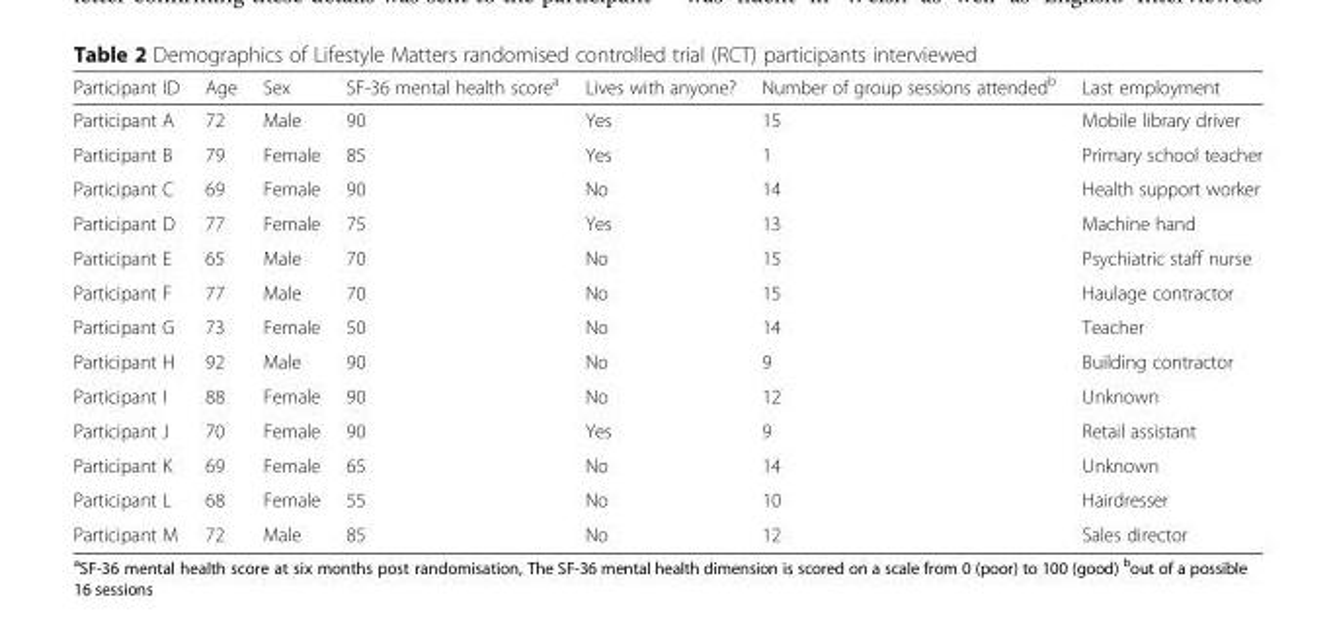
<table><thead><tr><td>Participant ID</td><td>Age</td><td>Sex</td><td>SF-36 mental health score<sup>a</sup></td><td>Lives with anyone?</td><td>Number of group sessions attended<sup>b</sup></td><td>Last employment</td></tr></thead><tbody><tr><td>Participant A</td><td>72</td><td>Male</td><td>90</td><td>Yes</td><td>15</td><td>Mobile library driver</td></tr><tr><td>Participant B</td><td>79</td><td>Female</td><td>85</td><td>Yes</td><td>1</td><td>Primary school teacher</td></tr><tr><td>Participant C</td><td>69</td><td>Female</td><td>90</td><td>No</td><td>14</td><td>Health support worker</td></tr><tr><td>Participant D</td><td>77</td><td>Female</td><td>75</td><td>Yes</td><td>13</td><td>Machine hand</td></tr><tr><td>Participant E</td><td>65</td><td>Male</td><td>70</td><td>No</td><td>15</td><td>Psychiatric staff nurse</td></tr><tr><td>Participant F</td><td>77</td><td>Male</td><td>70</td><td>No</td><td>15</td><td>Haulage contractor</td></tr><tr><td>Participant G</td><td>73</td><td>Female</td><td>50</td><td>No</td><td>14</td><td>Teacher</td></tr><tr><td>Participant H</td><td>92</td><td>Male</td><td>90</td><td>No</td><td>9</td><td>Building contractor</td></tr><tr><td>Participant I</td><td>88</td><td>Female</td><td>90</td><td>No</td><td>12</td><td>Unknown</td></tr><tr><td>Participant J</td><td>70</td><td>Female</td><td>90</td><td>Yes</td><td>9</td><td>Retail assistant</td></tr><tr><td>Participant K</td><td>69</td><td>Female</td><td>65</td><td>No</td><td>14</td><td>Unknown</td></tr><tr><td>Participant L</td><td>68</td><td>Female</td><td>55</td><td>No</td><td>10</td><td>Hairdresser</td></tr><tr><td>Participant M</td><td>72</td><td>Male</td><td>85</td><td>No</td><td>12</td><td>Sales director</td></tr></tbody></table>